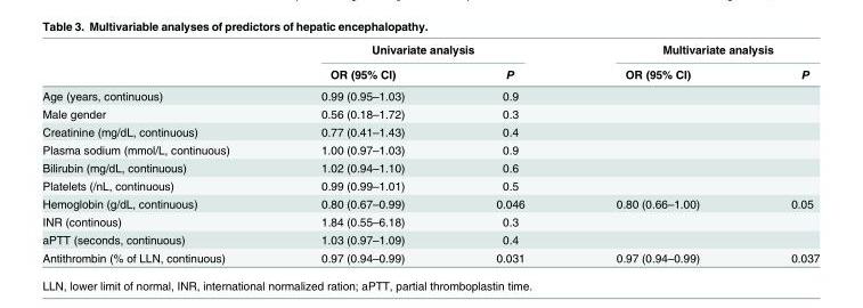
<table><thead><tr><td rowspan="2"></td><td colspan="2">Univariate analysis</td><td colspan="2">Multivariate analysis</td></tr><tr><td>OR (95% CI)</td><td>P</td><td>OR (95% CI)</td><td>P</td></tr></thead><tbody><tr><td>Age (years, continuous)</td><td>0.99 (0.95–1.03)</td><td>0.9</td><td></td><td></td></tr><tr><td>Male gender</td><td>0.56 (0.18–1.72)</td><td>0.3</td><td></td><td></td></tr><tr><td>Creatinine (mg/dL, continuous)</td><td>0.77 (0.41–1.43)</td><td>0.4</td><td></td><td></td></tr><tr><td>Plasma sodium (mmol/L, continuous)</td><td>1.00 (0.97–1.03)</td><td>0.9</td><td></td><td></td></tr><tr><td>Bilirubin (mg/dL, continuous)</td><td>1.02 (0.94–1.10)</td><td>0.6</td><td></td><td></td></tr><tr><td>Platelets (/nL, continuous)</td><td>0.99 (0.99–1.01)</td><td>0.5</td><td></td><td></td></tr><tr><td>Hemoglobin (g/dL, continuous)</td><td>0.80 (0.67–0.99)</td><td>0.046</td><td>0.80 (0.66–1.00)</td><td>0.05</td></tr><tr><td>INR (continous)</td><td>1.84 (0.55–6.18)</td><td>0.3</td><td></td><td></td></tr><tr><td>aPTT (seconds, continuous)</td><td>1.03 (0.97–1.09)</td><td>0.4</td><td></td><td></td></tr><tr><td>Antithrombin (% of LLN, continuous)</td><td>0.97 (0.94–0.99)</td><td>0.031</td><td>0.97 (0.94–0.99)</td><td>0.037</td></tr></tbody></table>